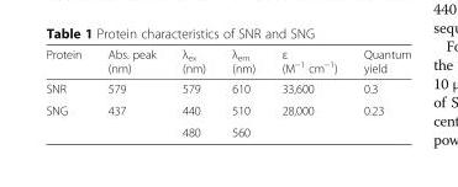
<table><thead><tr><td>Protein</td><td>Abs. peak (nm)</td><td>λ<sub>ex</sub> (nm)</td><td>λ<sub>em</sub> (nm)</td><td>ε (M<sup>−1</sup> cm<sup>−1</sup>)</td><td>Quantum yield</td></tr></thead><tbody><tr><td>SNR</td><td>579</td><td>579</td><td>610</td><td>33,600</td><td>0.3</td></tr><tr><td rowspan="2">SNG</td><td rowspan="2">437</td><td>440</td><td>510</td><td rowspan="2">28,000</td><td rowspan="2">0.23</td></tr><tr><td>480</td><td>560</td></tr></tbody></table>